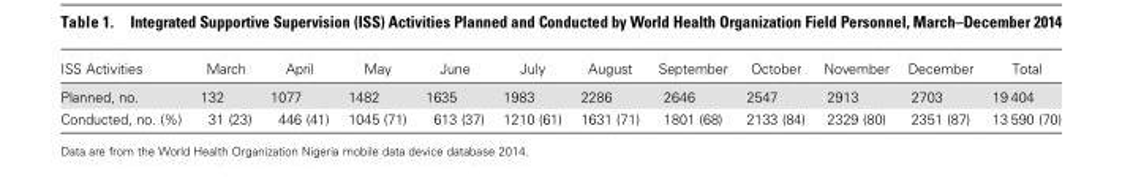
<table><thead><tr><td>ISS Activities</td><td>March</td><td>April</td><td>May</td><td>June</td><td>July</td><td>August</td><td>September</td><td>October</td><td>November</td><td>December</td><td>Total</td></tr></thead><tbody><tr><td>Planned, no.</td><td>132</td><td>1077</td><td>1482</td><td>1635</td><td>1983</td><td>2286</td><td>2646</td><td>2547</td><td>2913</td><td>2703</td><td>19 404</td></tr><tr><td>Conducted, no. (%)</td><td>31 (23)</td><td>446 (41)</td><td>1045 (71)</td><td>613 (37)</td><td>1210 (61)</td><td>1631 (71)</td><td>1801 (68)</td><td>2133 (84)</td><td>2329 (80)</td><td>2351 (87)</td><td>13 590 (70)</td></tr></tbody></table>